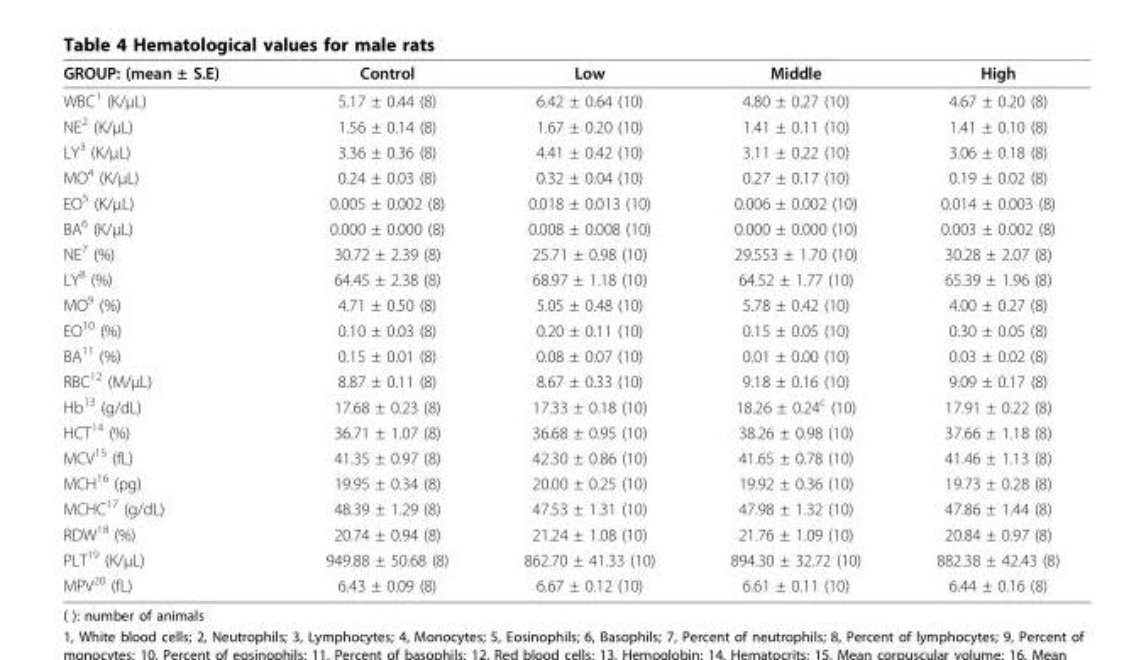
<table><thead><tr><td>GROUP: (mean ± S.E)</td><td>Control</td><td>Low</td><td>Middle</td><td>High</td></tr></thead><tbody><tr><td>WBC<sup>1</sup> (K/μL)</td><td>5.17 ± 0.44 (8)</td><td>6.42 ± 0.64 (10)</td><td>4.80 ± 0.27 (10)</td><td>4.67 ± 0.20 (8)</td></tr><tr><td>NE<sup>2</sup> (K/μL)</td><td>1.56 ± 0.14 (8)</td><td>1.67 ± 0.20 (10)</td><td>1.41 ± 0.11 (10)</td><td>1.41 ± 0.10 (8)</td></tr><tr><td>LY<sup>3</sup> (K/μL)</td><td>3.36 ± 0.36 (8)</td><td>4.41 ± 0.42 (10)</td><td>3.11 ± 0.22 (10)</td><td>3.06 ± 0.18 (8)</td></tr><tr><td>MO<sup>4</sup> (K/μL)</td><td>0.24 ± 0.03 (8)</td><td>0.32 ± 0.04 (10)</td><td>0.27 ± 0.17 (10)</td><td>0.19 ± 0.02 (8)</td></tr><tr><td>EO<sup>5</sup> (K/μL)</td><td>0.005 ± 0.002 (8)</td><td>0.018 ± 0.013 (10)</td><td>0.006 ± 0.002 (10)</td><td>0.014 ± 0.003 (8)</td></tr><tr><td>BA<sup>6</sup> (K/μL)</td><td>0.000 ± 0.000 (8)</td><td>0.008 ± 0.008 (10)</td><td>0.000 ± 0.000 (10)</td><td>0.003 ± 0.002 (8)</td></tr><tr><td>NE<sup>7</sup> (%)</td><td>30.72 ± 2.39 (8)</td><td>25.71 ± 0.98 (10)</td><td>29.553 ± 1.70 (10)</td><td>30.28 ± 2.07 (8)</td></tr><tr><td>LY<sup>8</sup> (%)</td><td>64.45 ± 2.38 (8)</td><td>68.97 ± 1.18 (10)</td><td>64.52 ± 1.77 (10)</td><td>65.39 ± 1.96 (8)</td></tr><tr><td>MO<sup>9</sup> (%)</td><td>4.71 ± 0.50 (8)</td><td>5.05 ± 0.48 (10)</td><td>5.78 ± 0.42 (10)</td><td>4.00 ± 0.27 (8)</td></tr><tr><td>EO<sup>10</sup> (%)</td><td>0.10 ± 0.03 (8)</td><td>0.20 ± 0.11 (10)</td><td>0.15 ± 0.05 (10)</td><td>0.30 ± 0.05 (8)</td></tr><tr><td>BA<sup>11</sup> (%)</td><td>0.15 ± 0.01 (8)</td><td>0.08 ± 0.07 (10)</td><td>0.01 ± 0.00 (10)</td><td>0.03 ± 0.02 (8)</td></tr><tr><td>RBC<sup>12</sup> (M/μL)</td><td>8.87 ± 0.11 (8)</td><td>8.67 ± 0.33 (10)</td><td>9.18 ± 0.16 (10)</td><td>9.09 ± 0.17 (8)</td></tr><tr><td>Hb<sup>13</sup> (g/dL)</td><td>17.68 ± 0.23 (8)</td><td>17.33 ± 0.18 (10)</td><td>18.26 ± 0.24<sup>c</sup> (10)</td><td>17.91 ± 0.22 (8)</td></tr><tr><td>HCT<sup>14</sup> (%)</td><td>36.71 ± 1.07 (8)</td><td>36.68 ± 0.95 (10)</td><td>38.26 ± 0.98 (10)</td><td>37.66 ± 1.18 (8)</td></tr><tr><td>MCV<sup>15</sup> (fL)</td><td>41.35 ± 0.97 (8)</td><td>42.30 ± 0.86 (10)</td><td>41.65 ± 0.78 (10)</td><td>41.46 ± 1.13 (8)</td></tr><tr><td>MCH<sup>16</sup> (pg)</td><td>19.95 ± 0.34 (8)</td><td>20.00 ± 0.25 (10)</td><td>19.92 ± 0.36 (10)</td><td>19.73 ± 0.28 (8)</td></tr><tr><td>MCHC<sup>17</sup> (g/dL)</td><td>48.39 ± 1.29 (8)</td><td>47.53 ± 1.31 (10)</td><td>47.98 ± 1.32 (10)</td><td>47.86 ± 1.44 (8)</td></tr><tr><td>RDW<sup>18</sup> (%)</td><td>20.74 ± 0.94 (8)</td><td>21.24 ± 1.08 (10)</td><td>21.76 ± 1.09 (10)</td><td>20.84 ± 0.97 (8)</td></tr><tr><td>PLT<sup>19</sup> (K/μL)</td><td>949.88 ± 50.68 (8)</td><td>862.70 ± 41.33 (10)</td><td>894.30 ± 32.72 (10)</td><td>882.38 ± 42.43 (8)</td></tr><tr><td>MPV<sup>20</sup> (fL)</td><td>6.43 ± 0.09 (8)</td><td>6.67 ± 0.12 (10)</td><td>6.61 ± 0.11 (10)</td><td>6.44 ± 0.16 (8)</td></tr></tbody></table>